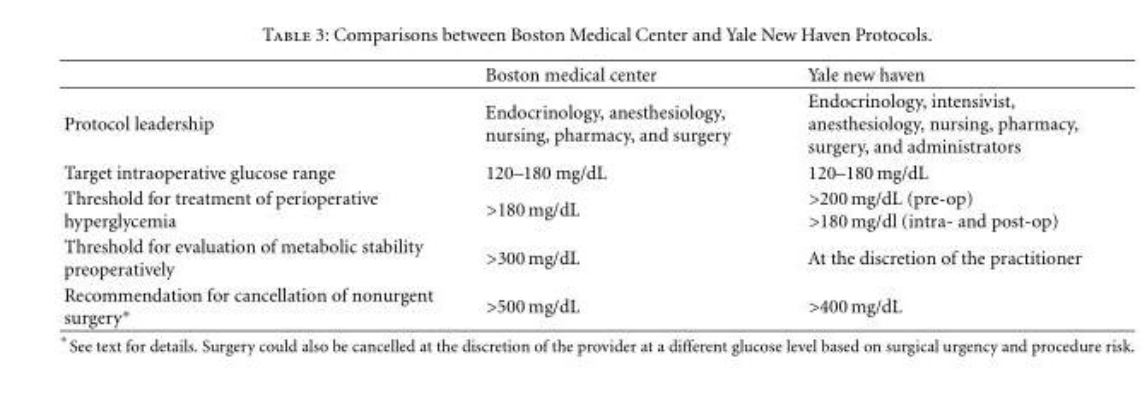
<table><thead><tr><td></td><td>Boston medical center</td><td>Yale new haven</td></tr></thead><tbody><tr><td>Protocol leadership</td><td>Endocrinology, anesthesiology, nursing, pharmacy, and surgery</td><td>Endocrinology, intensivist, anesthesiology, nursing, pharmacy, surgery, and administrators</td></tr><tr><td>Target intraoperative glucose range</td><td>120–180 mg/dL</td><td>120–180 mg/dL</td></tr><tr><td>Threshold for treatment of perioperative hyperglycemia</td><td>&gt;180 mg/dL</td><td>&gt;200 mg/dL (pre-op) &gt;180 mg/dl (intra- and post-op)</td></tr><tr><td>Threshold for evaluation of metabolic stability preoperatively</td><td>&gt;300 mg/dL</td><td>At the discretion of the practitioner</td></tr><tr><td>Recommendation for cancellation of nonurgent surgery∗</td><td>&gt;500 mg/dL</td><td>&gt;400 mg/dL</td></tr></tbody></table>